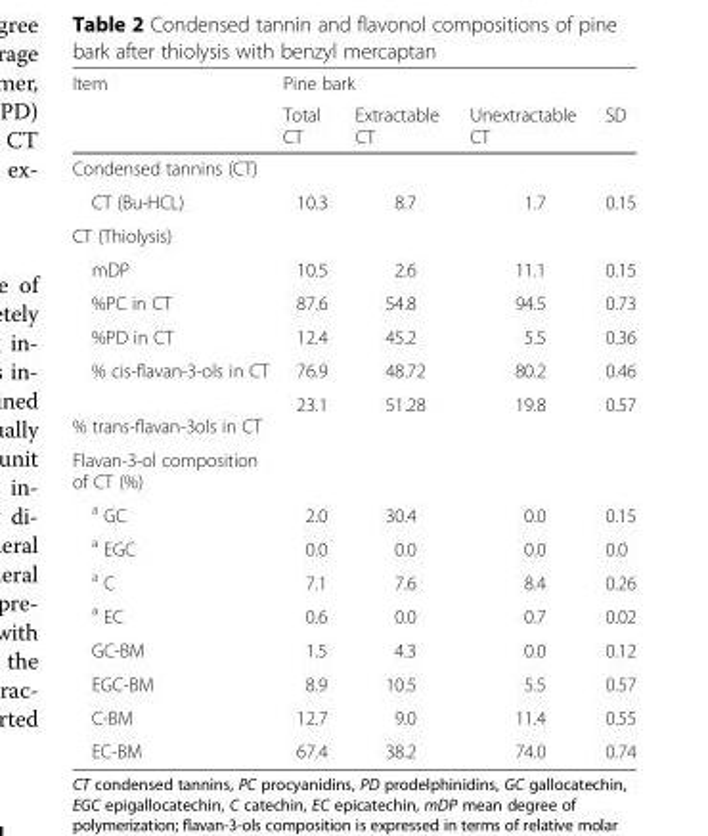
<table><thead><tr><td rowspan="2">Item</td><td colspan="4">Pine bark</td></tr><tr><td>Total CT</td><td>Extractable CT</td><td>Unextractable CT</td><td>SD</td></tr></thead><tbody><tr><td colspan="5">Condensed tannins (CT)</td></tr><tr><td>CT (Bu-HCL)</td><td>10.3</td><td>8.7</td><td>1.7</td><td>0.15</td></tr><tr><td colspan="5">CT (Thiolysis)</td></tr><tr><td>mDP</td><td>10.5</td><td>2.6</td><td>11.1</td><td>0.15</td></tr><tr><td>%PC in CT</td><td>87.6</td><td>54.8</td><td>94.5</td><td>0.73</td></tr><tr><td>%PD in CT</td><td>12.4</td><td>45.2</td><td>5.5</td><td>0.36</td></tr><tr><td>% cis-flavan-3-ols in CT</td><td>76.9</td><td>48.72</td><td>80.2</td><td>0.46</td></tr><tr><td>% trans-flavan-3ols in CT</td><td>23.1</td><td>51.28</td><td>19.8</td><td>0.57</td></tr><tr><td colspan="5">Flavan-3-ol composition of CT (%)</td></tr><tr><td><sup>a</sup> GC</td><td>2.0</td><td>30.4</td><td>0.0</td><td>0.15</td></tr><tr><td><sup>a</sup> EGC</td><td>0.0</td><td>0.0</td><td>0.0</td><td>0.0</td></tr><tr><td><sup>a</sup> C</td><td>7.1</td><td>7.6</td><td>8.4</td><td>0.26</td></tr><tr><td><sup>a</sup> EC</td><td>0.6</td><td>0.0</td><td>0.7</td><td>0.02</td></tr><tr><td>GC-BM</td><td>1.5</td><td>4.3</td><td>0.0</td><td>0.12</td></tr><tr><td>EGC-BM</td><td>8.9</td><td>10.5</td><td>5.5</td><td>0.57</td></tr><tr><td>C-BM</td><td>12.7</td><td>9.0</td><td>11.4</td><td>0.55</td></tr><tr><td>EC-BM</td><td>67.4</td><td>38.2</td><td>74.0</td><td>0.74</td></tr></tbody></table>